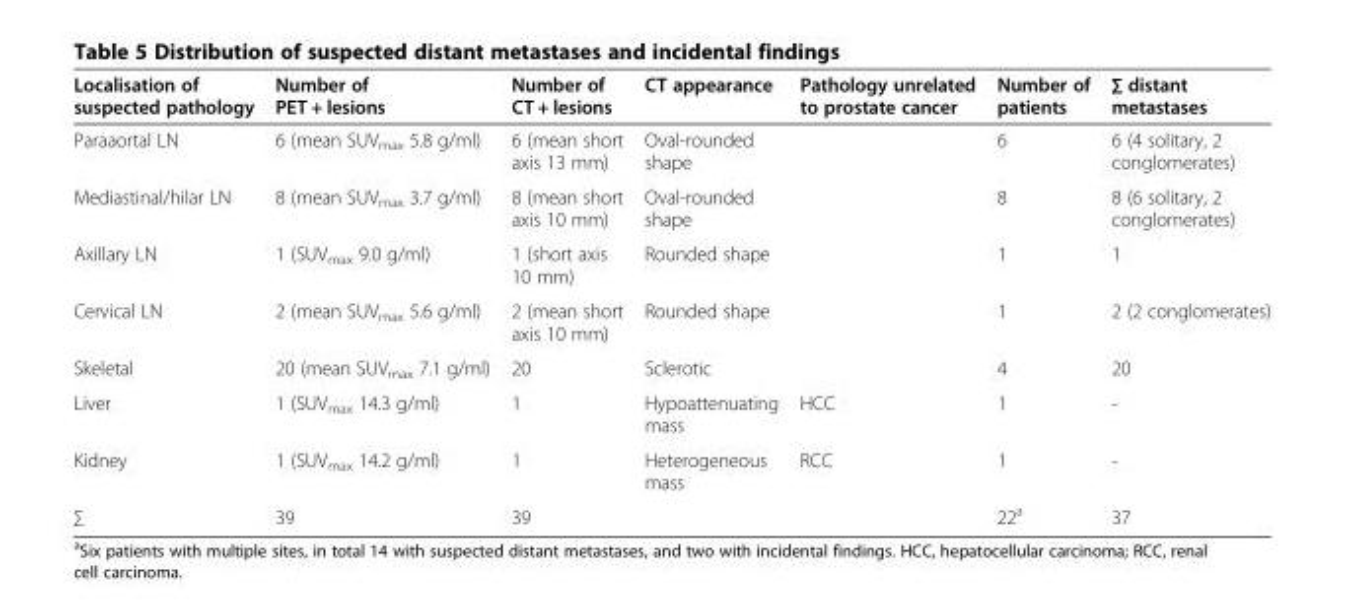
<table><thead><tr><td>Localisation of suspected pathology</td><td>Number of PET + lesions</td><td>Number of CT + lesions</td><td>CT appearance</td><td>Pathology unrelated to prostate cancer</td><td>Number of patients</td><td>∑ distant metastases</td></tr></thead><tbody><tr><td>Paraaortal LN</td><td>6 (mean SUV<sub>max</sub> 5.8 g/ml)</td><td>6 (mean short axis 13 mm)</td><td>Oval-rounded shape</td><td></td><td>6</td><td>6 (4 solitary, 2 conglomerates)</td></tr><tr><td>Mediastinal/hilar LN</td><td>8 (mean SUV<sub>max</sub> 3.7 g/ml)</td><td>8 (mean short axis 10 mm)</td><td>Oval-rounded shape</td><td></td><td>8</td><td>8 (6 solitary, 2 conglomerates)</td></tr><tr><td>Axillary LN</td><td>1 (SUV<sub>max</sub> 9.0 g/ml)</td><td>1 (short axis 10 mm)</td><td>Rounded shape</td><td></td><td>1</td><td>1</td></tr><tr><td>Cervical LN</td><td>2 (mean SUV<sub>max</sub> 5.6 g/ml)</td><td>2 (mean short axis 10 mm)</td><td>Rounded shape</td><td></td><td>1</td><td>2 (2 conglomerates)</td></tr><tr><td>Skeletal</td><td>20 (mean SUV<sub>max</sub> 7.1 g/ml)</td><td>20</td><td>Sclerotic</td><td></td><td>4</td><td>20</td></tr><tr><td>Liver</td><td>1 (SUV<sub>max</sub> 14.3 g/ml)</td><td>1</td><td>Hypoattenuating mass</td><td>HCC</td><td>1</td><td>-</td></tr><tr><td>Kidney</td><td>1 (SUV<sub>max</sub> 14.2 g/ml)</td><td>1</td><td>Heterogeneous mass</td><td>RCC</td><td>1</td><td>-</td></tr><tr><td>∑</td><td>39</td><td>39</td><td></td><td></td><td>22<sup>a</sup></td><td>37</td></tr></tbody></table>